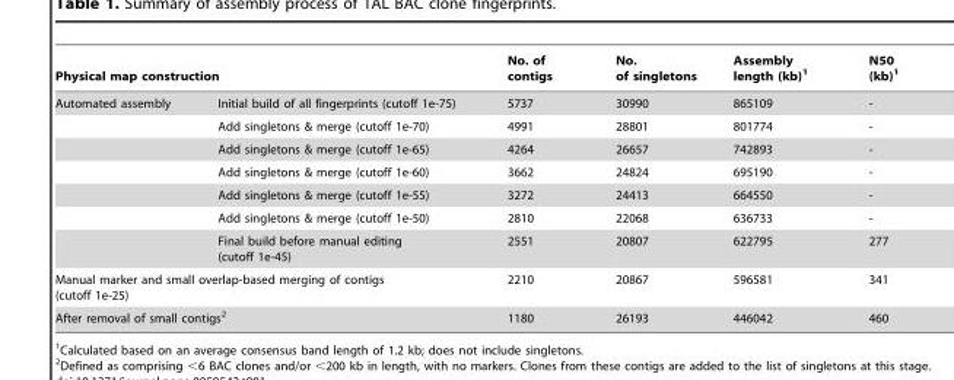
<table><thead><tr><td colspan="2">Physical map construction</td><td rowspan="2">No. of contigs 5737</td><td rowspan="2">No. of singletons 30990</td><td rowspan="2">Assembly length (kb)<sup>1</sup> 865109</td><td rowspan="2">N50 (kb)<sup>1</sup> -</td></tr><tr><td>Automated assembly</td><td>Initial build of all fingerprints (cutoff 1e-75)</td></tr></thead><tbody><tr><td></td><td>Add singletons &amp; merge (cutoff 1e-70)</td><td>4991</td><td>28801</td><td>801774</td><td>-</td></tr><tr><td></td><td>Add singletons &amp; merge (cutoff 1e-65)</td><td>4264</td><td>26657</td><td>742893</td><td>-</td></tr><tr><td></td><td>Add singletons &amp; merge (cutoff 1e-60)</td><td>3662</td><td>24824</td><td>695190</td><td>-</td></tr><tr><td></td><td>Add singletons &amp; merge (cutoff 1e-55)</td><td>3272</td><td>24413</td><td>664550</td><td>-</td></tr><tr><td></td><td>Add singletons &amp; merge (cutoff 1e-50)</td><td>2810</td><td>22068</td><td>636733</td><td>-</td></tr><tr><td></td><td>Final build before manual editing (cutoff 1e-45)</td><td>2551</td><td>20807</td><td>622795</td><td>277</td></tr><tr><td colspan="2">Manual marker and small overlap-based merging of contigs (cutoff 1e-25)</td><td>2210</td><td>20867</td><td>596581</td><td>341</td></tr><tr><td colspan="2">After removal of small contigs<sup>2</sup></td><td>1180</td><td>26193</td><td>446042</td><td>460</td></tr></tbody></table>